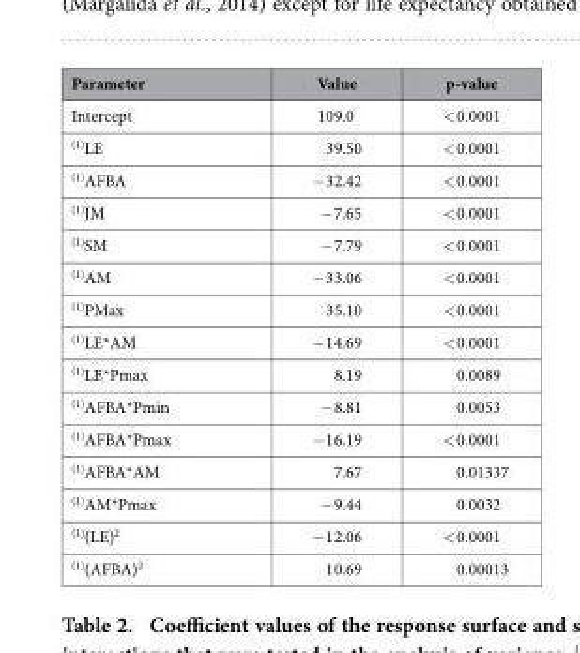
<table><thead><tr><td>Parameter</td><td>Value</td><td>p-value</td></tr></thead><tbody><tr><td>Intercept</td><td>109.0</td><td>&lt; 0.0001</td></tr><tr><td><sup>(1)</sup>LE</td><td>39.50</td><td>&lt; 0.0001</td></tr><tr><td><sup>(1)</sup>AFBA</td><td>− 32.42</td><td>&lt; 0.0001</td></tr><tr><td><sup>(1)</sup>JM</td><td>− 7.65</td><td>&lt; 0.0001</td></tr><tr><td><sup>(1)</sup>SM</td><td>− 7.79</td><td>&lt; 0.0001</td></tr><tr><td><sup>(1)</sup>AM</td><td>− 33.06</td><td>&lt; 0.0001</td></tr><tr><td><sup>(1)</sup>PMax</td><td>35.10</td><td>&lt; 0.0001</td></tr><tr><td><sup>(1)</sup>LE*AM</td><td>− 14.69</td><td>&lt; 0.0001</td></tr><tr><td><sup>(1)</sup>LE*Pmax</td><td>8.19</td><td>0.0089</td></tr><tr><td><sup>(1)</sup>AFBA*Pmin</td><td>− 8.81</td><td>0.0053</td></tr><tr><td><sup>(1)</sup>AFBA*Pmax</td><td>− 16.19</td><td>&lt; 0.0001</td></tr><tr><td><sup>(1)</sup>AFBA*AM</td><td>7.67</td><td>0.01337</td></tr><tr><td><sup>(1)</sup>AM*Pmax</td><td>− 9.44</td><td>0.0032</td></tr><tr><td><sup>(1)</sup>(LE)<sup>2</sup></td><td>− 12.06</td><td>&lt; 0.0001</td></tr><tr><td><sup>(1)</sup>(AFBA)<sup>2</sup></td><td>10.69</td><td>0.00013</td></tr></tbody></table>